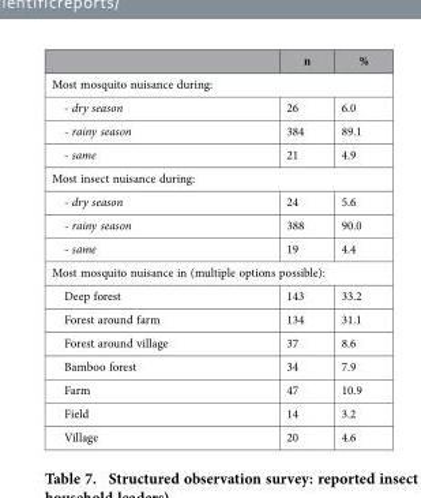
<table><thead><tr><td></td><td>n</td><td>%</td></tr></thead><tbody><tr><td colspan="3">Most mosquito nuisance during:</td></tr><tr><td>- dry season</td><td>26</td><td>6.0</td></tr><tr><td>- rainy season</td><td>384</td><td>89.1</td></tr><tr><td>- same</td><td>21</td><td>4.9</td></tr><tr><td colspan="3">Most insect nuisance during:</td></tr><tr><td>- dry season</td><td>24</td><td>5.6</td></tr><tr><td>- rainy season</td><td>388</td><td>90.0</td></tr><tr><td>- same</td><td>19</td><td>4.4</td></tr><tr><td colspan="3">Most mosquito nuisance in (multiple options possible):</td></tr><tr><td>Deep forest</td><td>143</td><td>33.2</td></tr><tr><td>Forest around farm</td><td>134</td><td>31.1</td></tr><tr><td>Forest around village</td><td>37</td><td>8.6</td></tr><tr><td>Bamboo forest</td><td>34</td><td>7.9</td></tr><tr><td>Farm</td><td>47</td><td>10.9</td></tr><tr><td>Field</td><td>14</td><td>3.2</td></tr><tr><td>Village</td><td>20</td><td>4.6</td></tr></tbody></table>